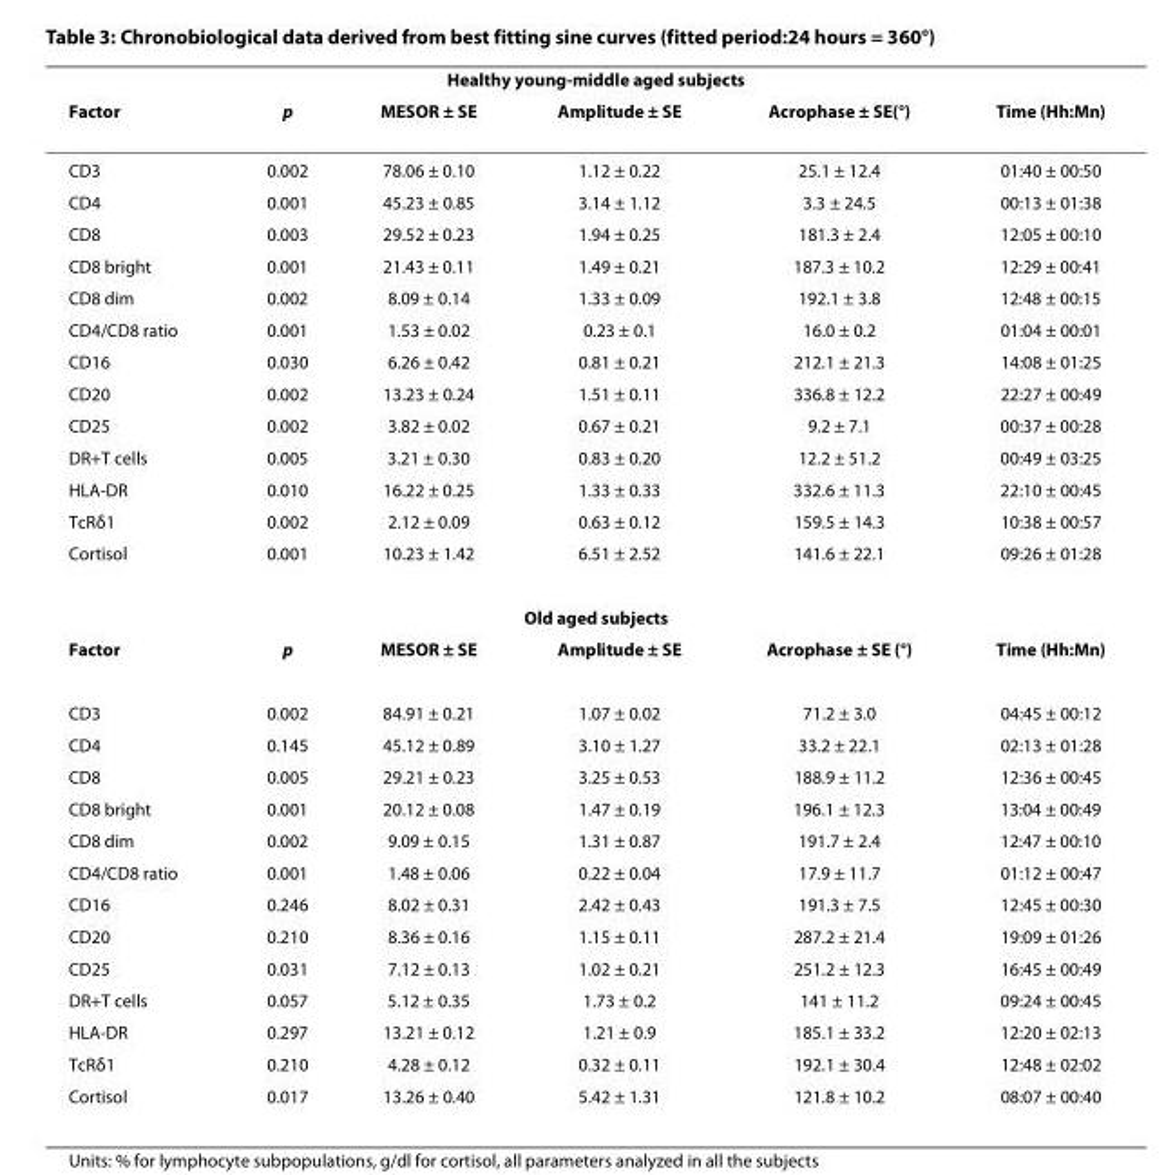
<table><thead><tr><td colspan="6">Healthy young-middle aged subjects</td></tr><tr><td>Factor</td><td>p</td><td>MESOR ± SE</td><td>Amplitude ± SE</td><td>Acrophase ± SE(°)</td><td>Time (Hh:Mn)</td></tr></thead><tbody><tr><td>CD3</td><td>0.002</td><td>78.06 ± 0.10</td><td>1.12 ± 0.22</td><td>25.1 ± 12.4</td><td>01:40 ± 00:50</td></tr><tr><td>CD4</td><td>0.001</td><td>45.23 ± 0.85</td><td>3.14 ± 1.12</td><td>3.3 ± 24.5</td><td>00:13 ± 01:38</td></tr><tr><td>CD8</td><td>0.003</td><td>29.52 ± 0.23</td><td>1.94 ± 0.25</td><td>181.3 ± 2.4</td><td>12:05 ± 00:10</td></tr><tr><td>CD8 bright</td><td>0.001</td><td>21.43 ± 0.11</td><td>1.49 ± 0.21</td><td>187.3 ± 10.2</td><td>12:29 ± 00:41</td></tr><tr><td>CD8 dim</td><td>0.002</td><td>8.09 ± 0.14</td><td>1.33 ± 0.09</td><td>192.1 ± 3.8</td><td>12:48 ± 00:15</td></tr><tr><td>CD4/CD8 ratio</td><td>0.001</td><td>1.53 ± 0.02</td><td>0.23 ± 0.1</td><td>16.0 ± 0.2</td><td>01:04 ± 00:01</td></tr><tr><td>CD16</td><td>0.030</td><td>6.26 ± 0.42</td><td>0.81 ± 0.21</td><td>212.1 ± 21.3</td><td>14:08 ± 01:25</td></tr><tr><td>CD20</td><td>0.002</td><td>13.23 ± 0.24</td><td>1.51 ± 0.11</td><td>336.8 ± 12.2</td><td>22:27 ± 00:49</td></tr><tr><td>CD25</td><td>0.002</td><td>3.82 ± 0.02</td><td>0.67 ± 0.21</td><td>9.2 ± 7.1</td><td>00:37 ± 00:28</td></tr><tr><td>DR+T cells</td><td>0.005</td><td>3.21 ± 0.30</td><td>0.83 ± 0.20</td><td>12.2 ± 51.2</td><td>00:49 ± 03:25</td></tr><tr><td>HLA-DR</td><td>0.010</td><td>16.22 ± 0.25</td><td>1.33 ± 0.33</td><td>332.6 ± 11.3</td><td>22:10 ± 00:45</td></tr><tr><td>TcRδ1</td><td>0.002</td><td>2.12 ± 0.09</td><td>0.63 ± 0.12</td><td>159.5 ± 14.3</td><td>10:38 ± 00:57</td></tr><tr><td>Cortisol</td><td>0.001</td><td>10.23 ± 1.42</td><td>6.51 ± 2.52</td><td>141.6 ± 22.1</td><td>09:26 ± 01:28</td></tr><tr><td colspan="6">Old aged subjects</td></tr><tr><td>Factor</td><td>p</td><td>MESOR ± SE</td><td>Amplitude ± SE</td><td>Acrophase ± SE (°)</td><td>Time (Hh:Mn)</td></tr><tr><td>CD3</td><td>0.002</td><td>84.91 ± 0.21</td><td>1.07 ± 0.02</td><td>71.2 ± 3.0</td><td>04:45 ± 00:12</td></tr><tr><td>CD4</td><td>0.145</td><td>45.12 ± 0.89</td><td>3.10 ± 1.27</td><td>33.2 ± 22.1</td><td>02:13 ± 01:28</td></tr><tr><td>CD8</td><td>0.005</td><td>29.21 ± 0.23</td><td>3.25 ± 0.53</td><td>188.9 ± 11.2</td><td>12:36 ± 00:45</td></tr><tr><td>CD8 bright</td><td>0.001</td><td>20.12 ± 0.08</td><td>1.47 ± 0.19</td><td>196.1 ± 12.3</td><td>13:04 ± 00:49</td></tr><tr><td>CD8 dim</td><td>0.002</td><td>9.09 ± 0.15</td><td>1.31 ± 0.87</td><td>191.7 ± 2.4</td><td>12:47 ± 00:10</td></tr><tr><td>CD4/CD8 ratio</td><td>0.001</td><td>1.48 ± 0.06</td><td>0.22 ± 0.04</td><td>17.9 ± 11.7</td><td>01:12 ± 00:47</td></tr><tr><td>CD16</td><td>0.246</td><td>8.02 ± 0.31</td><td>2.42 ± 0.43</td><td>191.3 ± 7.5</td><td>12:45 ± 00:30</td></tr><tr><td>CD20</td><td>0.210</td><td>8.36 ± 0.16</td><td>1.15 ± 0.11</td><td>287.2 ± 21.4</td><td>19:09 ± 01:26</td></tr><tr><td>CD25</td><td>0.031</td><td>7.12 ± 0.13</td><td>1.02 ± 0.21</td><td>251.2 ± 12.3</td><td>16:45 ± 00:49</td></tr><tr><td>DR+T cells</td><td>0.057</td><td>5.12 ± 0.35</td><td>1.73 ± 0.2</td><td>141 ± 11.2</td><td>09:24 ± 00:45</td></tr><tr><td>HLA-DR</td><td>0.297</td><td>13.21 ± 0.12</td><td>1.21 ± 0.9</td><td>185.1 ± 33.2</td><td>12:20 ± 02:13</td></tr><tr><td>TcRδ1</td><td>0.210</td><td>4.28 ± 0.12</td><td>0.32 ± 0.11</td><td>192.1 ± 30.4</td><td>12:48 ± 02:02</td></tr><tr><td>Cortisol</td><td>0.017</td><td>13.26 ± 0.40</td><td>5.42 ± 1.31</td><td>121.8 ± 10.2</td><td>08:07 ± 00:40</td></tr></tbody></table>